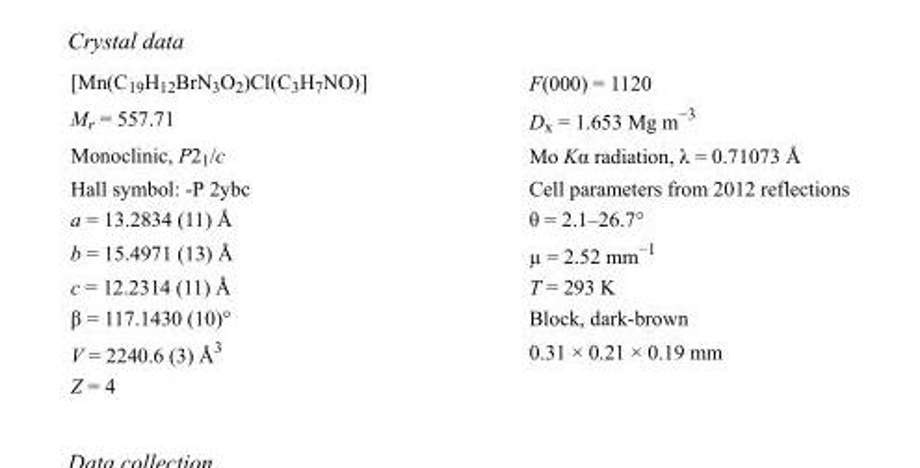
<table><tbody><tr><td>[Mn(C<sub>19</sub>H<sub>12</sub>BrN<sub>3</sub>O<sub>2</sub>)Cl(C<sub>3</sub>H<sub>7</sub>NO)]</td><td>F(000) = 1120</td></tr><tr><td>M<sub>r</sub> = 557.71</td><td>D<sub>x</sub> = 1.653 Mg m<sup>−3</sup></td></tr><tr><td>Monoclinic, P2<sub>1</sub>/c</td><td>Mo Kα radiation, λ = 0.71073 Å</td></tr><tr><td>Hall symbol: -P 2ybc</td><td>Cell parameters from 2012 reflections</td></tr><tr><td>a = 13.2834 (11) Å</td><td>θ = 2.1–26.7°</td></tr><tr><td>b = 15.4971 (13) Å</td><td>µ = 2.52 mm<sup>−1</sup></td></tr><tr><td>c = 12.2314 (11) Å</td><td>T = 293 K</td></tr><tr><td>β = 117.1430 (10)°</td><td>Block, dark-brown</td></tr><tr><td>V = 2240.6 (3) Å<sup>3</sup></td><td>0.31 × 0.21 × 0.19 mm</td></tr><tr><td>Z = 4</td><td></td></tr></tbody></table>